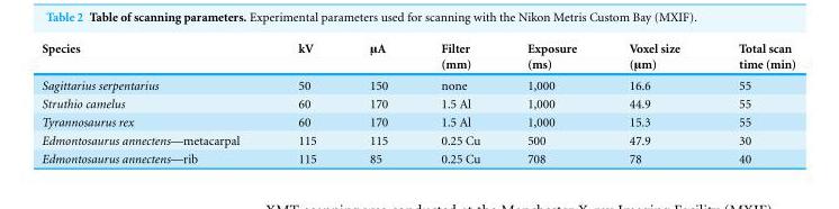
<table><thead><tr><td>Species</td><td>kV</td><td>µA</td><td>Filter (mm)</td><td>Exposure (ms)</td><td>Voxel size (µm)</td><td>Total scan time (min)</td></tr></thead><tbody><tr><td>Sagittarius serpentarius</td><td>50</td><td>150</td><td>none</td><td>1,000</td><td>16.6</td><td>55</td></tr><tr><td>Struthio camelus</td><td>60</td><td>170</td><td>1.5 Al</td><td>1,000</td><td>44.9</td><td>55</td></tr><tr><td>Tyrannosaurus rex</td><td>60</td><td>170</td><td>1.5 Al</td><td>1,000</td><td>15.3</td><td>55</td></tr><tr><td>Edmontosaurus annectens—metacarpal</td><td>115</td><td>115</td><td>0.25 Cu</td><td>500</td><td>47.9</td><td>30</td></tr><tr><td>Edmontosaurus annectens—rib</td><td>115</td><td>85</td><td>0.25 Cu</td><td>708</td><td>78</td><td>40</td></tr></tbody></table>